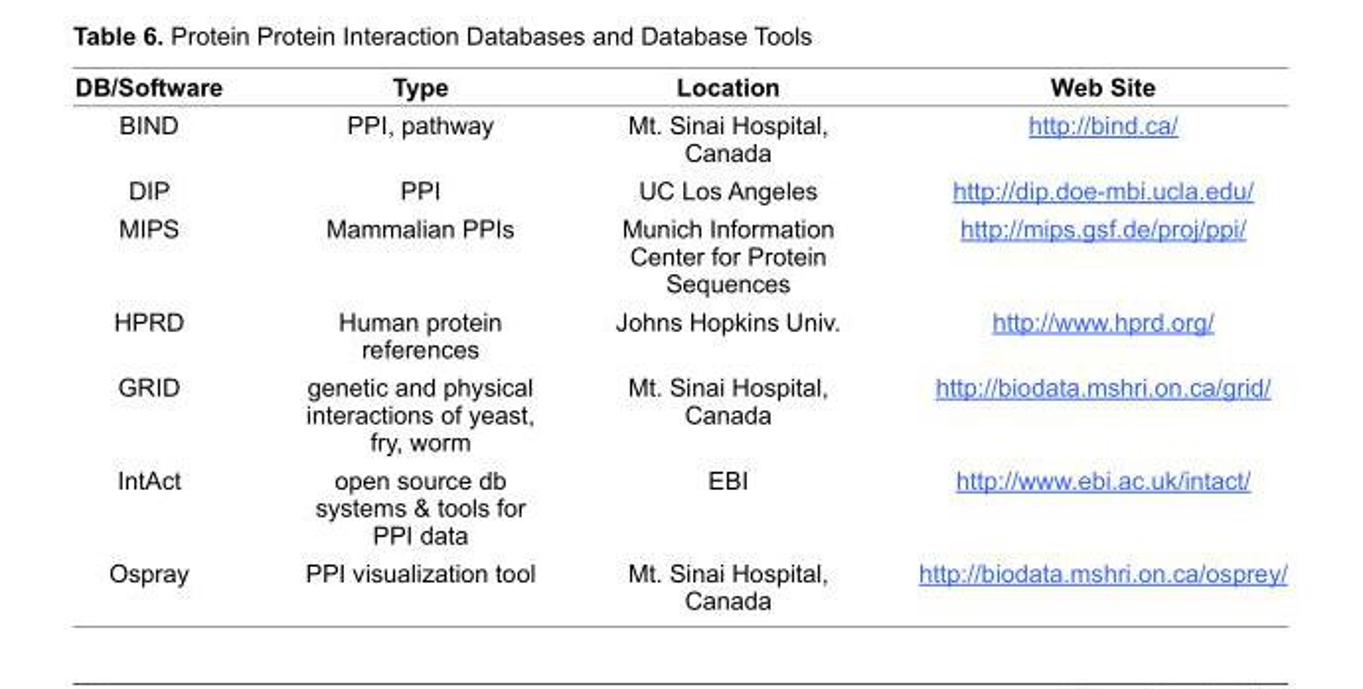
<table><thead><tr><td>DB/Software</td><td>Type</td><td>Location</td><td>Web Site</td></tr></thead><tbody><tr><td>BIND</td><td>PPI, pathway</td><td>Mt. Sinai Hospital, Canada</td><td>http://bind.ca/</td></tr><tr><td>DIP</td><td>PPI</td><td>UC Los Angeles</td><td>http://dip.doe-mbi.ucla.edu/</td></tr><tr><td>MIPS</td><td>Mammalian PPIs</td><td>Munich Information Center for Protein Sequences</td><td>http://mips.gsf.de/proj/ppi/</td></tr><tr><td>HPRD</td><td>Human protein references</td><td>Johns Hopkins Univ.</td><td>http://www.hprd.org/</td></tr><tr><td>GRID</td><td>genetic and physical interactions of yeast, fry, worm</td><td>Mt. Sinai Hospital, Canada</td><td>http://biodata.mshri.on.ca/grid/</td></tr><tr><td>IntAct</td><td>open source db systems &amp; tools for PPI data</td><td>EBI</td><td>http://www.ebi.ac.uk/intact/</td></tr><tr><td>Ospray</td><td>PPI visualization tool</td><td>Mt. Sinai Hospital, Canada</td><td>http://biodata.mshri.on.ca/osprey/</td></tr></tbody></table>